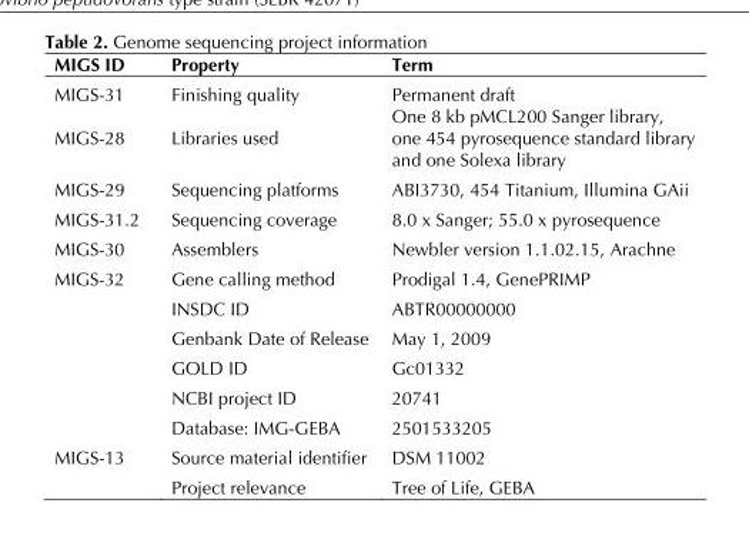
<table><thead><tr><td>MIGS ID</td><td>Property</td><td>Term</td></tr></thead><tbody><tr><td>MIGS-31</td><td>Finishing quality</td><td>Permanent draft</td></tr><tr><td>MIGS-28</td><td>Libraries used</td><td>One 8 kb pMCL200 Sanger library, one 454 pyrosequence standard library and one Solexa library</td></tr><tr><td>MIGS-29</td><td>Sequencing platforms</td><td>ABI3730, 454 Titanium, Illumina GAii</td></tr><tr><td>MIGS-31.2</td><td>Sequencing coverage</td><td>8.0 x Sanger; 55.0 x pyrosequence</td></tr><tr><td>MIGS-30</td><td>Assemblers</td><td>Newbler version 1.1.02.15, Arachne</td></tr><tr><td rowspan="6">MIGS-32</td><td>Gene calling method</td><td>Prodigal 1.4, GenePRIMP</td></tr><tr><td>INSDC ID</td><td>ABTR00000000</td></tr><tr><td>Genbank Date of Release</td><td>May 1, 2009</td></tr><tr><td>GOLD ID</td><td>Gc01332</td></tr><tr><td>NCBI project ID</td><td>20741</td></tr><tr><td>Database: IMG-GEBA</td><td>2501533205</td></tr><tr><td rowspan="2">MIGS-13</td><td>Source material identifier</td><td>DSM 11002</td></tr><tr><td>Project relevance</td><td>Tree of Life, GEBA</td></tr></tbody></table>